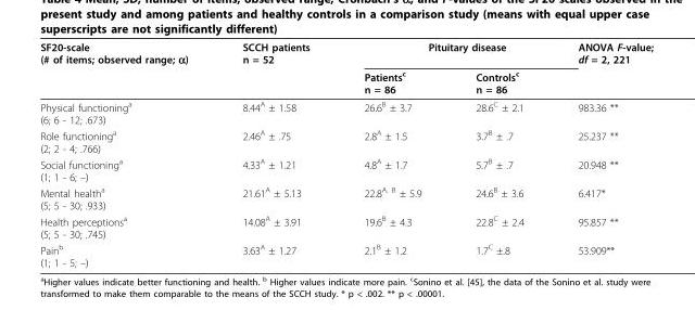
<table><thead><tr><td rowspan="2">SF20-scale (# of items; observed range; α)</td><td rowspan="2">SCCH patients n = 52</td><td colspan="2">Pituitary disease</td><td rowspan="2">ANOVA F-value; df = 2, 221</td></tr><tr><td>Patients<sup>c</sup> n = 86</td><td>Controls<sup>c</sup> n = 86</td></tr></thead><tbody><tr><td>Physical functioning<sup>a</sup> (6; 6 - 12; .673)</td><td>8.44<sup>A</sup> ± 1.58</td><td>26.6<sup>B</sup> ± 3.7</td><td>28.6<sup>C</sup> ± 2.1</td><td>983.36 **</td></tr><tr><td>Role functioning<sup>a</sup> (2; 2 - 4; .766)</td><td>2.46<sup>A</sup> ± .75</td><td>2.8<sup>A</sup> ± 1.5</td><td>3.7<sup>B</sup> ± .7</td><td>25.237 **</td></tr><tr><td>Social functioninga (1; 1 - 6; –)</td><td>4.33<sup>A</sup> ± 1.21</td><td>4.8<sup>A</sup> ± 1.7</td><td>5.7<sup>B</sup> ± .7</td><td>20.948 **</td></tr><tr><td>Mental health<sup>a</sup> (5; 5 - 30; .933)</td><td>21.61<sup>A</sup> ± 5.13</td><td>22.8<sup>A, B</sup> ± 5.9</td><td>24.6<sup>B</sup> ± 3.6</td><td>6.417*</td></tr><tr><td>Health perceptions<sup>a</sup> (5; 5 - 30; .745)</td><td>14.08<sup>A</sup> ± 3.91</td><td>19.6<sup>B</sup> ± 4.3</td><td>22.8<sup>C</sup> ± 2.4</td><td>95.857 **</td></tr><tr><td>Painb (1; 1 - 5; –)</td><td>3.63<sup>A</sup> ± 1.27</td><td>2.1<sup>B</sup> ± 1.2</td><td>1.7<sup>C</sup> ±.8</td><td>53.909**</td></tr></tbody></table>